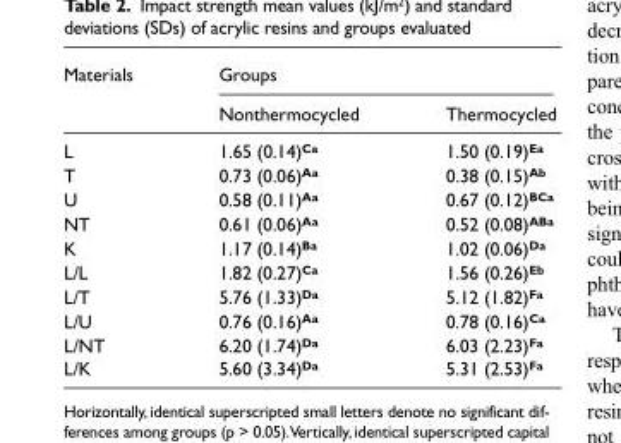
<table><thead><tr><td rowspan="2">Materials</td><td colspan="2">Groups</td></tr><tr><td>Nonthermocycled</td><td>Thermocycled</td></tr></thead><tbody><tr><td>L</td><td>1.65 (0.14)<sup>Ca</sup></td><td>1.50 (0.19)<sup>Ea</sup></td></tr><tr><td>T</td><td>0.73 (0.06)<sup>Aa</sup></td><td>0.38 (0.15)<sup>Ab</sup></td></tr><tr><td>U</td><td>0.58 (0.11)<sup>Aa</sup></td><td>0.67 (0.12)<sup>BCa</sup></td></tr><tr><td>NT</td><td>0.61 (0.06)<sup>Aa</sup></td><td>0.52 (0.08)<sup>ABa</sup></td></tr><tr><td>K</td><td>1.17 (0.14)<sup>Ba</sup></td><td>1.02 (0.06)<sup>Da</sup></td></tr><tr><td>L/L</td><td>1.82 (0.27)<sup>Ca</sup></td><td>1.56 (0.26)<sup>Eb</sup></td></tr><tr><td>L/T</td><td>5.76 (1.33)<sup>Da</sup></td><td>5.12 (1.82)<sup>Fa</sup></td></tr><tr><td>L/U</td><td>0.76 (0.16)<sup>Aa</sup></td><td>0.78 (0.16)<sup>Ca</sup></td></tr><tr><td>L/NT</td><td>6.20 (1.74)<sup>Da</sup></td><td>6.03 (2.23)<sup>Fa</sup></td></tr><tr><td>L/K</td><td>5.60 (3.34)<sup>Da</sup></td><td>5.31 (2.53)<sup>Fa</sup></td></tr></tbody></table>